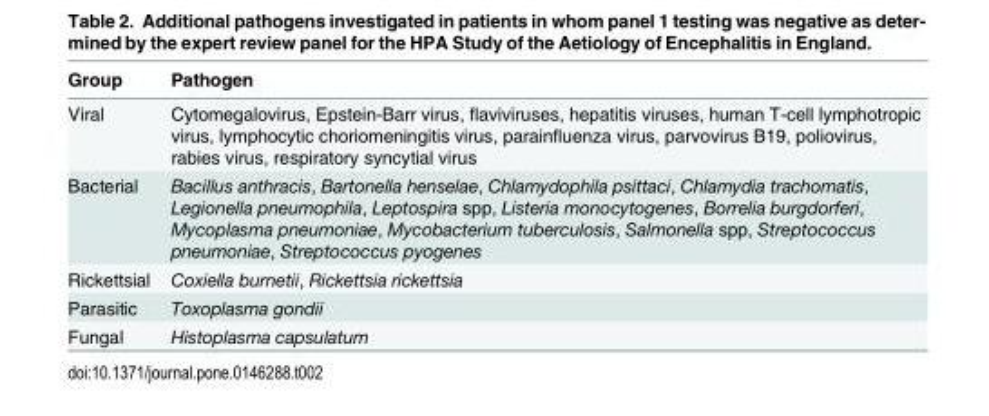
<table><thead><tr><td>Group</td><td>Pathogen</td></tr></thead><tbody><tr><td>Viral</td><td>Cytomegalovirus, Epstein-Barr virus, flaviviruses, hepatitis viruses, human T-cell lymphotropic virus, lymphocytic choriomeningitis virus, parainfluenza virus, parvovirus B19, poliovirus, rabies virus, respiratory syncytial virus</td></tr><tr><td>Bacterial</td><td>Bacillus anthracis, Bartonella henselae, Chlamydophila psittaci, Chlamydia trachomatis, Legionella pneumophila, Leptospira spp, Listeria monocytogenes, Borrelia burgdorferi, Mycoplasma pneumoniae, Mycobacterium tuberculosis, Salmonella spp, Streptococcus pneumoniae, Streptococcus pyogenes</td></tr><tr><td>Rickettsial</td><td>Coxiella burnetii, Rickettsia rickettsia</td></tr><tr><td>Parasitic</td><td>Toxoplasma gondii</td></tr><tr><td>Fungal</td><td>Histoplasma capsulatum</td></tr></tbody></table>